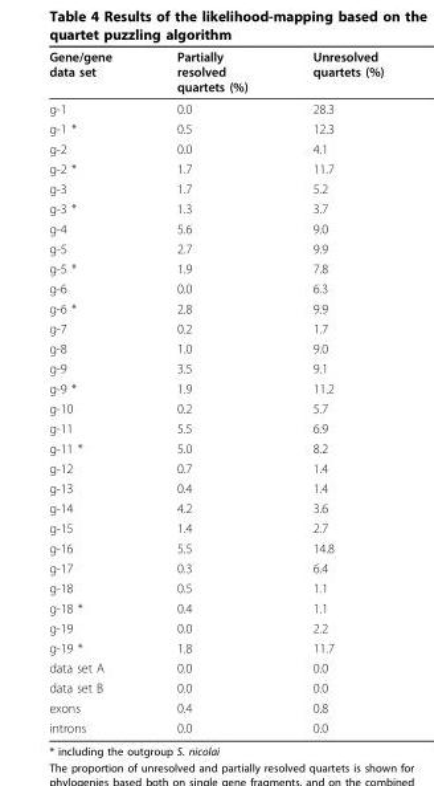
<table><thead><tr><td>Gene/gene data set</td><td>Partially resolved quartets (%)</td><td>Unresolved quartets (%)</td></tr></thead><tbody><tr><td>g-1</td><td>0.0</td><td>28.3</td></tr><tr><td>g-1 *</td><td>0.5</td><td>12.3</td></tr><tr><td>g-2</td><td>0.0</td><td>4.1</td></tr><tr><td>g-2 *</td><td>1.7</td><td>11.7</td></tr><tr><td>g-3</td><td>1.7</td><td>5.2</td></tr><tr><td>g-3 *</td><td>1.3</td><td>3.7</td></tr><tr><td>g-4</td><td>5.6</td><td>9.0</td></tr><tr><td>g-5</td><td>2.7</td><td>9.9</td></tr><tr><td>g-5 *</td><td>1.9</td><td>7.8</td></tr><tr><td>g-6</td><td>0.0</td><td>6.3</td></tr><tr><td>g-6 *</td><td>2.8</td><td>9.9</td></tr><tr><td>g-7</td><td>0.2</td><td>1.7</td></tr><tr><td>g-8</td><td>1.0</td><td>9.0</td></tr><tr><td>g-9</td><td>3.5</td><td>9.1</td></tr><tr><td>g-9 *</td><td>1.9</td><td>11.2</td></tr><tr><td>g-10</td><td>0.2</td><td>5.7</td></tr><tr><td>g-11</td><td>5.5</td><td>6.9</td></tr><tr><td>g-11 *</td><td>5.0</td><td>8.2</td></tr><tr><td>g-12</td><td>0.7</td><td>1.4</td></tr><tr><td>g-13</td><td>0.4</td><td>1.4</td></tr><tr><td>g-14</td><td>4.2</td><td>3.6</td></tr><tr><td>g-15</td><td>1.4</td><td>2.7</td></tr><tr><td>g-16</td><td>5.5</td><td>14.8</td></tr><tr><td>g-17</td><td>0.3</td><td>6.4</td></tr><tr><td>g-18</td><td>0.5</td><td>1.1</td></tr><tr><td>g-18 *</td><td>0.4</td><td>1.1</td></tr><tr><td>g-19</td><td>0.0</td><td>2.2</td></tr><tr><td>g-19 *</td><td>1.8</td><td>11.7</td></tr><tr><td>data set A</td><td>0.0</td><td>0.0</td></tr><tr><td>data set B</td><td>0.0</td><td>0.0</td></tr><tr><td>exons</td><td>0.4</td><td>0.8</td></tr><tr><td>introns</td><td>0.0</td><td>0.0</td></tr></tbody></table>